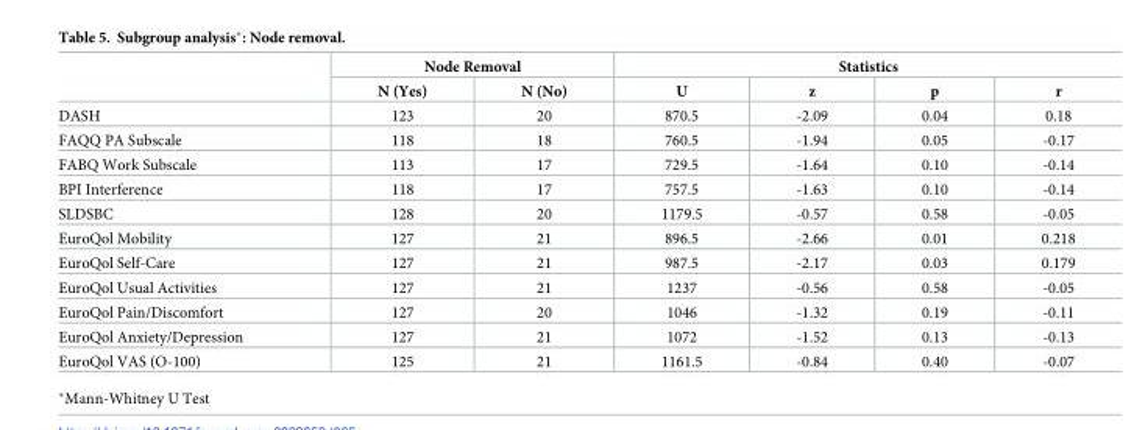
<table><thead><tr><td rowspan="2"></td><td colspan="2">Node Removal</td><td colspan="4">Statistics</td></tr><tr><td>N (Yes)</td><td>N (No)</td><td>U</td><td>z</td><td>p</td><td>r</td></tr></thead><tbody><tr><td>DASH</td><td>123</td><td>20</td><td>870.5</td><td>-2.09</td><td>0.04</td><td>0.18</td></tr><tr><td>FAQQ PA Subscale</td><td>118</td><td>18</td><td>760.5</td><td>-1.94</td><td>0.05</td><td>-0.17</td></tr><tr><td>FABQ Work Subscale</td><td>113</td><td>17</td><td>729.5</td><td>-1.64</td><td>0.10</td><td>-0.14</td></tr><tr><td>BPI Interference</td><td>118</td><td>17</td><td>757.5</td><td>-1.63</td><td>0.10</td><td>-0.14</td></tr><tr><td>SLDSBC</td><td>128</td><td>20</td><td>1179.5</td><td>-0.57</td><td>0.58</td><td>-0.05</td></tr><tr><td>EuroQol Mobility</td><td>127</td><td>21</td><td>896.5</td><td>-2.66</td><td>0.01</td><td>0.218</td></tr><tr><td>EuroQol Self-Care</td><td>127</td><td>21</td><td>987.5</td><td>-2.17</td><td>0.03</td><td>0.179</td></tr><tr><td>EuroQol Usual Activities</td><td>127</td><td>21</td><td>1237</td><td>-0.56</td><td>0.58</td><td>-0.05</td></tr><tr><td>EuroQol Pain/Discomfort</td><td>127</td><td>20</td><td>1046</td><td>-1.32</td><td>0.19</td><td>-0.11</td></tr><tr><td>EuroQol Anxiety/Depression</td><td>127</td><td>21</td><td>1072</td><td>-1.52</td><td>0.13</td><td>-0.13</td></tr><tr><td>EuroQol VAS (O-100)</td><td>125</td><td>21</td><td>1161.5</td><td>-0.84</td><td>0.40</td><td>-0.07</td></tr></tbody></table>